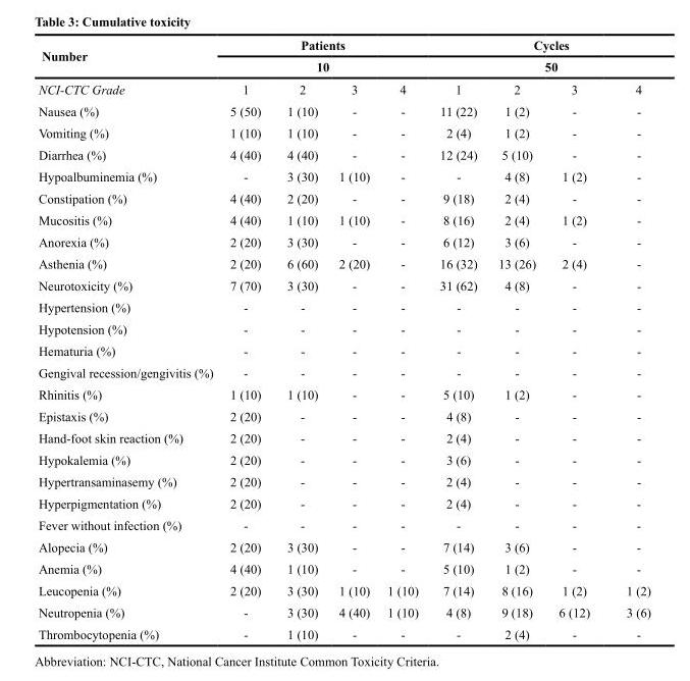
<table><thead><tr><td rowspan="3">Number NCI-CTC Grade</td><td rowspan="2" colspan="4">Patients 10</td><td rowspan="2" colspan="4">Cycles 50</td></tr><tr></tr><tr><td>1</td><td>2</td><td>3</td><td>4</td><td>1</td><td>2</td><td>3</td><td>4</td></tr></thead><tbody><tr><td>Nausea (%)</td><td>5 (50)</td><td>1 (10)</td><td>-</td><td>-</td><td>11 (22)</td><td>1 (2)</td><td>-</td><td>-</td></tr><tr><td>Vomiting (%)</td><td>1 (10)</td><td>1 (10)</td><td>-</td><td>-</td><td>2 (4)</td><td>1 (2)</td><td>-</td><td>-</td></tr><tr><td>Diarrhea (%)</td><td>4 (40)</td><td>4 (40)</td><td>-</td><td>-</td><td>12 (24)</td><td>5 (10)</td><td>-</td><td>-</td></tr><tr><td>Hypoalbuminemia (%)</td><td>-</td><td>3 (30)</td><td>1 (10)</td><td>-</td><td>-</td><td>4 (8)</td><td>1 (2)</td><td>-</td></tr><tr><td>Constipation (%)</td><td>4 (40)</td><td>2 (20)</td><td>-</td><td>-</td><td>9 (18)</td><td>2 (4)</td><td>-</td><td>-</td></tr><tr><td>Mucositis (%)</td><td>4 (40)</td><td>1 (10)</td><td>1 (10)</td><td>-</td><td>8 (16)</td><td>2 (4)</td><td>1 (2)</td><td>-</td></tr><tr><td>Anorexia (%)</td><td>2 (20)</td><td>3 (30)</td><td>-</td><td>-</td><td>6 (12)</td><td>3 (6)</td><td>-</td><td>-</td></tr><tr><td>Asthenia (%)</td><td>2 (20)</td><td>6 (60)</td><td>2 (20)</td><td>-</td><td>16 (32)</td><td>13 (26)</td><td>2 (4)</td><td>-</td></tr><tr><td>Neurotoxicity (%)</td><td>7 (70)</td><td>3 (30)</td><td>-</td><td>-</td><td>31 (62)</td><td>4 (8)</td><td>-</td><td>-</td></tr><tr><td>Hypertension (%)</td><td>-</td><td>-</td><td>-</td><td>-</td><td>-</td><td>-</td><td>-</td><td>-</td></tr><tr><td>Hypotension (%)</td><td>-</td><td>-</td><td>-</td><td>-</td><td>-</td><td>-</td><td>-</td><td>-</td></tr><tr><td>Hematuria (%)</td><td>-</td><td>-</td><td>-</td><td>-</td><td>-</td><td>-</td><td>-</td><td>-</td></tr><tr><td>Gengival recession/gengivitis (%)</td><td>-</td><td>-</td><td>-</td><td>-</td><td>-</td><td>-</td><td>-</td><td>-</td></tr><tr><td>Rhinitis (%)</td><td>1 (10)</td><td>1 (10)</td><td>-</td><td>-</td><td>5 (10)</td><td>1 (2)</td><td>-</td><td>-</td></tr><tr><td>Epistaxis (%)</td><td>2 (20)</td><td>-</td><td>-</td><td>-</td><td>4 (8)</td><td>-</td><td>-</td><td>-</td></tr><tr><td>Hand-foot skin reaction (%)</td><td>2 (20)</td><td>-</td><td>-</td><td>-</td><td>2 (4)</td><td>-</td><td>-</td><td>-</td></tr><tr><td>Hypokalemia (%)</td><td>2 (20)</td><td>-</td><td>-</td><td>-</td><td>3 (6)</td><td>-</td><td>-</td><td>-</td></tr><tr><td>Hypertransaminasemy (%)</td><td>2 (20)</td><td>-</td><td>-</td><td>-</td><td>2 (4)</td><td>-</td><td>-</td><td>-</td></tr><tr><td>Hyperpigmentation (%)</td><td>2 (20)</td><td>-</td><td>-</td><td>-</td><td>2 (4)</td><td>-</td><td>-</td><td>-</td></tr><tr><td>Fever without infection (%)</td><td>-</td><td>-</td><td>-</td><td>-</td><td>-</td><td>-</td><td>-</td><td>-</td></tr><tr><td>Alopecia (%)</td><td>2 (20)</td><td>3 (30)</td><td>-</td><td>-</td><td>7 (14)</td><td>3 (6)</td><td>-</td><td>-</td></tr><tr><td>Anemia (%)</td><td>4 (40)</td><td>1 (10)</td><td>-</td><td>-</td><td>5 (10)</td><td>1 (2)</td><td>-</td><td>-</td></tr><tr><td>Leucopenia (%)</td><td>2 (20)</td><td>3 (30)</td><td>1 (10)</td><td>1 (10)</td><td>7 (14)</td><td>8 (16)</td><td>1 (2)</td><td>1 (2)</td></tr><tr><td>Neutropenia (%)</td><td>-</td><td>3 (30)</td><td>4 (40)</td><td>1 (10)</td><td>4 (8)</td><td>9 (18)</td><td>6 (12)</td><td>3 (6)</td></tr><tr><td>Thrombocytopenia (%)</td><td>-</td><td>1 (10)</td><td>-</td><td>-</td><td>-</td><td>2 (4)</td><td>-</td><td>-</td></tr></tbody></table>